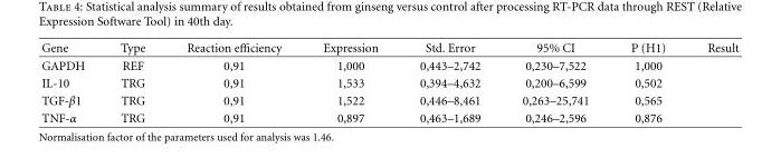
<table><thead><tr><td>Gene</td><td>Type</td><td>Reaction efficiency</td><td>Expression</td><td>Std. Error</td><td>95% CI</td><td>P (H1)</td><td>Result</td></tr></thead><tbody><tr><td>GAPDH</td><td>REF</td><td>0,91</td><td>1,000</td><td>0,443–2,742</td><td>0,230–7,522</td><td>1,000</td><td></td></tr><tr><td>IL-10</td><td>TRG</td><td>0,91</td><td>1,533</td><td>0,394–4,632</td><td>0,200–6,599</td><td>0,502</td><td></td></tr><tr><td>TGF-β1</td><td>TRG</td><td>0,91</td><td>1,522</td><td>0,446–8,461</td><td>0,263–25,741</td><td>0,565</td><td></td></tr><tr><td>TNF-α</td><td>TRG</td><td>0,91</td><td>0,897</td><td>0,463–1,689</td><td>0,246–2,596</td><td>0,876</td><td></td></tr></tbody></table>